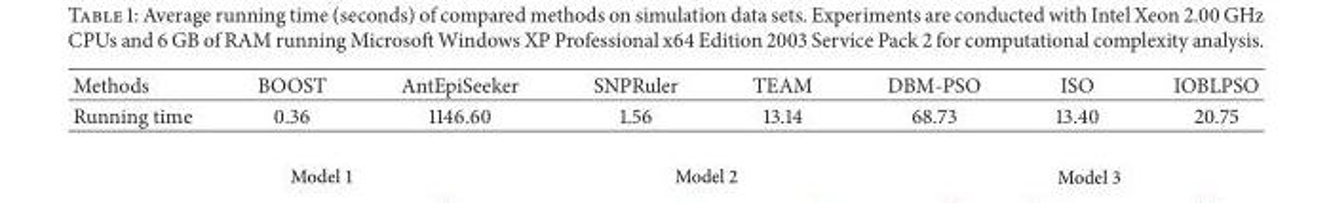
<table><thead><tr><td>Methods</td><td>BOOST</td><td>AntEpiSeeker</td><td>SNPRuler</td><td>TEAM</td><td>DBM-PSO</td><td>ISO</td><td>IOBLPSO</td></tr></thead><tbody><tr><td>Running time</td><td>0.36</td><td>1146.60</td><td>1.56</td><td>13.14</td><td>68.73</td><td>13.40</td><td>20.75</td></tr></tbody></table>